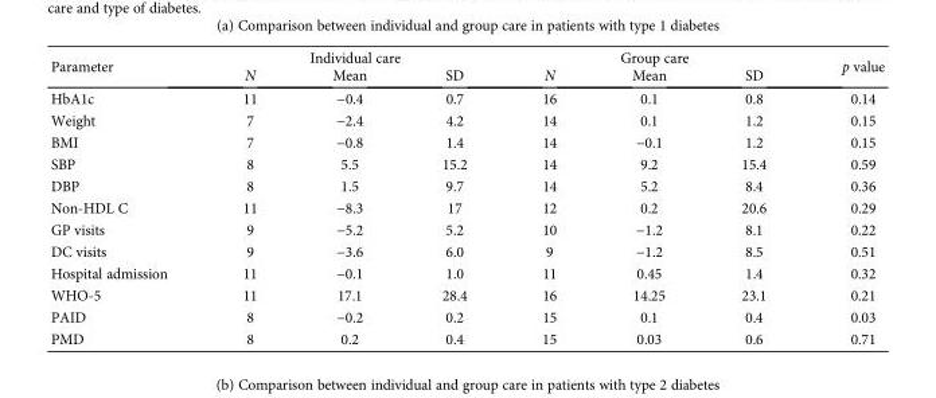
<table><thead><tr><td rowspan="2">Parameter</td><td colspan="3">Individual care</td><td colspan="3">Group care</td><td rowspan="2">p value</td></tr><tr><td>N</td><td>Mean</td><td>SD</td><td>N</td><td>Mean</td><td>SD</td></tr></thead><tbody><tr><td>HbA1c</td><td>11</td><td>−0.4</td><td>0.7</td><td>16</td><td>0.1</td><td>0.8</td><td>0.14</td></tr><tr><td>Weight</td><td>7</td><td>−2.4</td><td>4.2</td><td>14</td><td>0.1</td><td>1.2</td><td>0.15</td></tr><tr><td>BMI</td><td>7</td><td>−0.8</td><td>1.4</td><td>14</td><td>−0.1</td><td>1.2</td><td>0.15</td></tr><tr><td>SBP</td><td>8</td><td>5.5</td><td>15.2</td><td>14</td><td>9.2</td><td>15.4</td><td>0.59</td></tr><tr><td>DBP</td><td>8</td><td>1.5</td><td>9.7</td><td>14</td><td>5.2</td><td>8.4</td><td>0.36</td></tr><tr><td>Non-HDL C</td><td>11</td><td>−8.3</td><td>17</td><td>12</td><td>0.2</td><td>20.6</td><td>0.29</td></tr><tr><td>GP visits</td><td>9</td><td>−5.2</td><td>5.2</td><td>10</td><td>−1.2</td><td>8.1</td><td>0.22</td></tr><tr><td>DC visits</td><td>9</td><td>−3.6</td><td>6.0</td><td>9</td><td>−1.2</td><td>8.5</td><td>0.51</td></tr><tr><td>Hospital admission</td><td>11</td><td>−0.1</td><td>1.0</td><td>11</td><td>0.45</td><td>1.4</td><td>0.32</td></tr><tr><td>WHO-5</td><td>11</td><td>17.1</td><td>28.4</td><td>16</td><td>14.25</td><td>23.1</td><td>0.21</td></tr><tr><td>PAID</td><td>8</td><td>−0.2</td><td>0.2</td><td>15</td><td>0.1</td><td>0.4</td><td>0.03</td></tr><tr><td>PMD</td><td>8</td><td>0.2</td><td>0.4</td><td>15</td><td>0.03</td><td>0.6</td><td>0.71</td></tr></tbody></table>